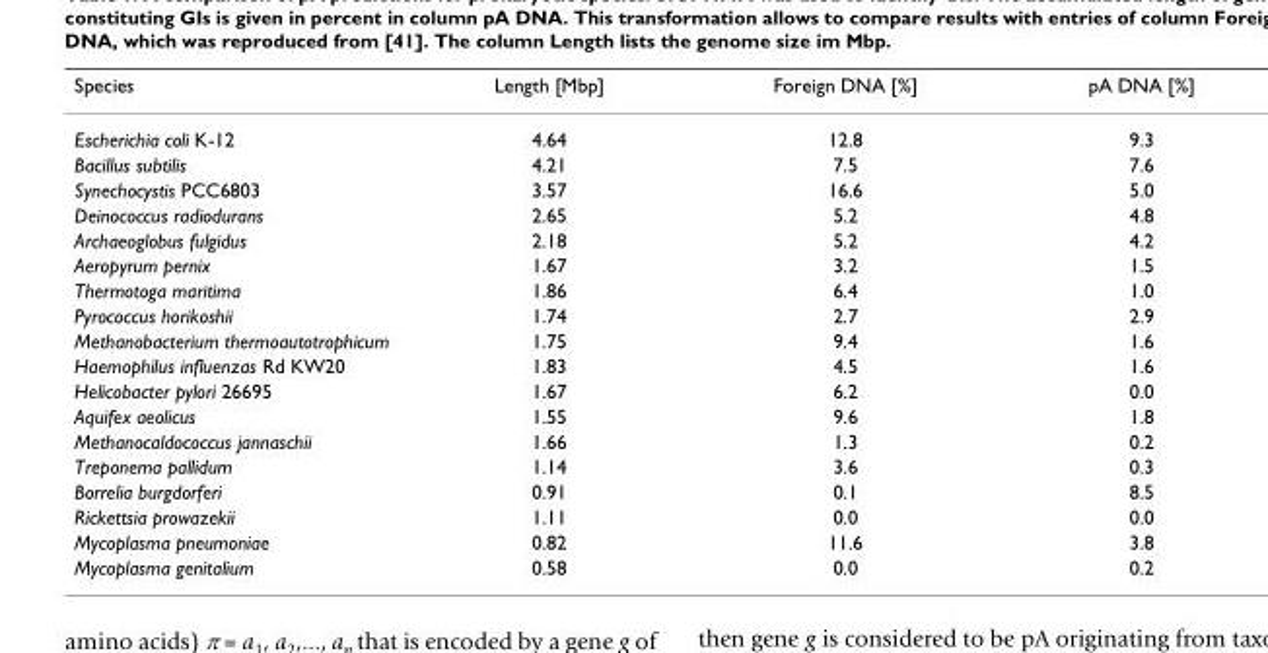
<table><thead><tr><td>Species</td><td>Length [Mbp]</td><td>Foreign DNA [%]</td><td>pA DNA [%]</td></tr></thead><tbody><tr><td>Escherichia coli K-12</td><td>4.64</td><td>12.8</td><td>9.3</td></tr><tr><td>Bacillus subtilis</td><td>4.21</td><td>7.5</td><td>7.6</td></tr><tr><td>Synechocystis PCC6803</td><td>3.57</td><td>16.6</td><td>5.0</td></tr><tr><td>Deinococcus radiodurans</td><td>2.65</td><td>5.2</td><td>4.8</td></tr><tr><td>Archaeoglobus fulgidus</td><td>2.18</td><td>5.2</td><td>4.2</td></tr><tr><td>Aeropyrum pernix</td><td>1.67</td><td>3.2</td><td>1.5</td></tr><tr><td>Thermotoga maritima</td><td>1.86</td><td>6.4</td><td>1.0</td></tr><tr><td>Pyrococcus horikoshii</td><td>1.74</td><td>2.7</td><td>2.9</td></tr><tr><td>Methanobacterium thermoautotrophicum</td><td>1.75</td><td>9.4</td><td>1.6</td></tr><tr><td>Haemophilus influenzas Rd KW20</td><td>1.83</td><td>4.5</td><td>1.6</td></tr><tr><td>Helicobacter pylori 26695</td><td>1.67</td><td>6.2</td><td>0.0</td></tr><tr><td>Aquifex aeolicus</td><td>1.55</td><td>9.6</td><td>1.8</td></tr><tr><td>Methanocaldococcus jannaschii</td><td>1.66</td><td>1.3</td><td>0.2</td></tr><tr><td>Treponema pallidum</td><td>1.14</td><td>3.6</td><td>0.3</td></tr><tr><td>Borrelia burgdorferi</td><td>0.91</td><td>0.1</td><td>8.5</td></tr><tr><td>Rickettsia prowazekii</td><td>1.11</td><td>0.0</td><td>0.0</td></tr><tr><td>Mycoplasma pneumoniae</td><td>0.82</td><td>11.6</td><td>3.8</td></tr><tr><td>Mycoplasma genitalium</td><td>0.58</td><td>0.0</td><td>0.2</td></tr></tbody></table>